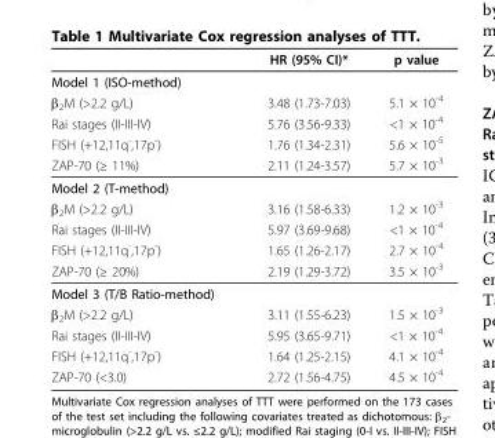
<table><thead><tr><td></td><td>HR (95% CI)*</td><td>p value</td></tr></thead><tbody><tr><td colspan="3">Model 1 (ISO-method)</td></tr><tr><td>β<sub>2</sub>M (&gt;2.2 g/L)</td><td>3.48 (1.73-7.03)</td><td>5.1 × 10<sup>-4</sup></td></tr><tr><td>Rai stages (II-III-IV)</td><td>5.76 (3.56-9.33)</td><td>&lt;1 × 10<sup>-4</sup></td></tr><tr><td>FISH (+12,11q<sup>-</sup>,17p<sup>-</sup>)</td><td>1.76 (1.34-2.31)</td><td>5.6 × 10<sup>-5</sup></td></tr><tr><td>ZAP-70 (≥ 11%)</td><td>2.11 (1.24-3.57)</td><td>5.7 × 10<sup>-3</sup></td></tr><tr><td colspan="3">Model 2 (T-method)</td></tr><tr><td>β<sub>2</sub>M (&gt;2.2 g/L)</td><td>3.16 (1.58-6.33)</td><td>1.2 × 10<sup>-3</sup></td></tr><tr><td>Rai stages (II-III-IV)</td><td>5.97 (3.69-9.68)</td><td>&lt;1 × 10<sup>-4</sup></td></tr><tr><td>FISH (+12,11q<sup>-</sup>,17p<sup>-</sup>)</td><td>1.65 (1.26-2.17)</td><td>2.7 × 10<sup>-4</sup></td></tr><tr><td>ZAP-70 (≥ 20%)</td><td>2.19 (1.29-3.72)</td><td>3.5 × 10<sup>-3</sup></td></tr><tr><td colspan="3">Model 3 (T/B Ratio-method)</td></tr><tr><td>β<sub>2</sub>M (&gt;2.2 g/L)</td><td>3.11 (1.55-6.23)</td><td>1.5 × 10<sup>-3</sup></td></tr><tr><td>Rai stages (II-III-IV)</td><td>5.95 (3.65-9.71)</td><td>&lt;1 × 10<sup>-4</sup></td></tr><tr><td>FISH (+12,11q<sup>-</sup>,17p<sup>-</sup>)</td><td>1.64 (1.25-2.15)</td><td>4.1 × 10<sup>-4</sup></td></tr><tr><td>ZAP-70 (&lt;3.0)</td><td>2.72 (1.56-4.75)</td><td>4.5 × 10<sup>-4</sup></td></tr></tbody></table>